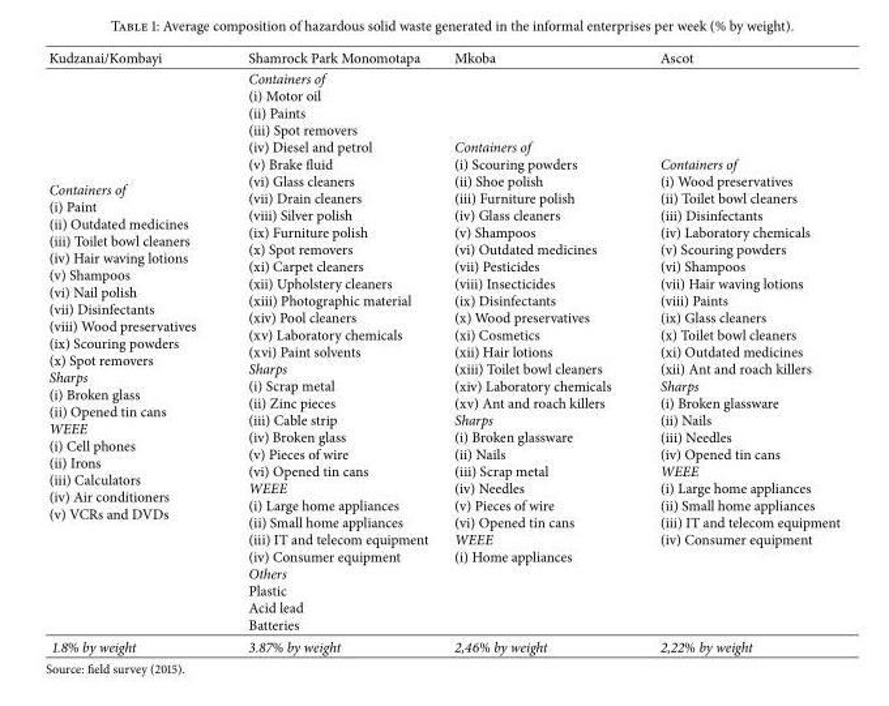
<table><thead><tr><td>Kudzanai/Kombayi</td><td>Shamrock Park Monomotapa</td><td>Mkoba</td><td>Ascot</td></tr></thead><tbody><tr><td>Containers of (i) Paint (ii) Outdated medicines (iii) Toilet bowl cleaners (iv) Hair waving lotions (v) Shampoos (vi) Nail polish (vii) Disinfectants (viii) Wood preservatives (ix) Scouring powders (x) Spot removers Sharps (i) Broken glass (ii) Opened tin cans WEEE (i) Cell phones (ii) Irons (iii) Calculators (iv) Air conditioners (v) VCRs and DVDs</td><td>Containers of (i) Motor oil (ii) Paints (iii) Spot removers (iv) Diesel and petrol (v) Brake fluid (vi) Glass cleaners (vii) Drain cleaners (viii) Silver polish (ix) Furniture polish (x) Spot removers (xi) Carpet cleaners (xii) Upholstery cleaners (xiii) Photographic material (xiv) Pool cleaners (xv) Laboratory chemicals (xvi) Paint solvents Sharps (i) Scrap metal (ii) Zinc pieces (iii) Cable strip (iv) Broken glass (v) Pieces of wire (vi) Opened tin cans WEEE (i) Large home appliances (ii) Small home appliances (iii) IT and telecom equipment (iv) Consumer equipment Others Plastic Acid lead Batteries</td><td>Containers of (i) Scouring powders (ii) Shoe polish (iii) Furniture polish (iv) Glass cleaners (v) Shampoos (vi) Outdated medicines (vii) Pesticides (viii) Insecticides (ix) Disinfectants (x) Wood preservatives (xi) Cosmetics (xii) Hair lotions (xiii) Toilet bowl cleaners (xiv) Laboratory chemicals (xv) Ant and roach killers Sharps (i) Broken glassware (ii) Nails (iii) Scrap metal (iv) Needles (v) Pieces of wire (vi) Opened tin cans WEEE (i) Home appliances</td><td>Containers of (i) Wood preservatives (ii) Toilet bowl cleaners (iii) Disinfectants (iv) Laboratory chemicals (v) Scouring powders (vi) Shampoos (vii) Hair waving lotions (viii) Paints (ix) Glass cleaners (x) Toilet bowl cleaners (xi) Outdated medicines (xii) Ant and roach killers Sharps (i) Broken glassware (ii) Nails (iii) Needles (iv) Opened tin cans WEEE (i) Large home appliances (ii) Small home appliances (iii) IT and telecom equipment (iv) Consumer equipment</td></tr><tr><td>1.8% by weight</td><td>3.87% by weight</td><td>2,46% by weight</td><td>2,22% by weight</td></tr></tbody></table>